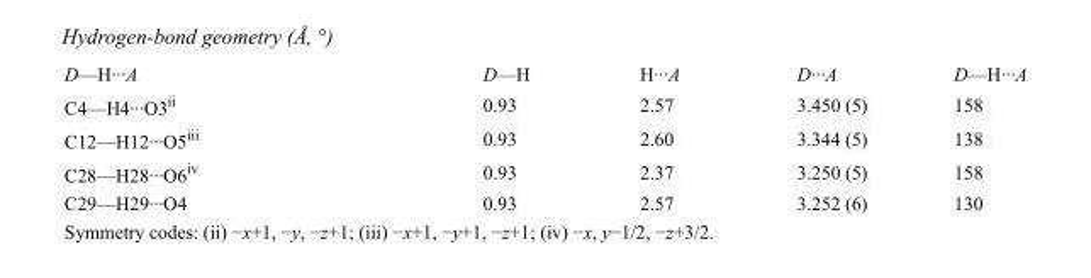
<table><tbody><tr><td>D—H···A</td><td>D—H</td><td>H···A</td><td>D···A</td><td>D—H···A</td></tr><tr><td>C4—H4···O3<sup>ii</sup></td><td>0.93</td><td>2.57</td><td>3.450 (5)</td><td>158</td></tr><tr><td>C12—H12···O5<sup>iii</sup></td><td>0.93</td><td>2.60</td><td>3.344 (5)</td><td>138</td></tr><tr><td>C28—H28···O6<sup>iv</sup></td><td>0.93</td><td>2.37</td><td>3.250 (5)</td><td>158</td></tr><tr><td>C29—H29···O4</td><td>0.93</td><td>2.57</td><td>3.252 (6)</td><td>130</td></tr></tbody></table>